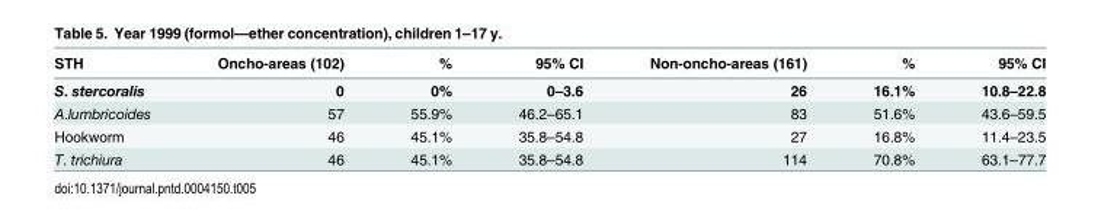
<table><thead><tr><td>STH</td><td>Oncho-areas (102)</td><td>%</td><td>95% CI</td><td>Non-oncho-areas (161)</td><td>%</td><td>95% CI</td></tr></thead><tbody><tr><td>S. stercoralis</td><td>0</td><td>0%</td><td>0–3.6</td><td>26</td><td>16.1%</td><td>10.8–22.8</td></tr><tr><td>A.lumbricoides</td><td>57</td><td>55.9%</td><td>46.2–65.1</td><td>83</td><td>51.6%</td><td>43.6–59.5</td></tr><tr><td>Hookworm</td><td>46</td><td>45.1%</td><td>35.8–54.8</td><td>27</td><td>16.8%</td><td>11.4–23.5</td></tr><tr><td>T. trichiura</td><td>46</td><td>45.1%</td><td>35.8–54.8</td><td>114</td><td>70.8%</td><td>63.1–77.7</td></tr></tbody></table>